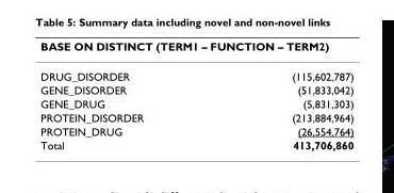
<table><thead><tr><td colspan="2">BASE ON DISTINCT (TERM1 – FUNCTION – TERM2)</td></tr><tr><td>DRUG_DISORDER</td><td>(115,602,787)</td></tr></thead><tbody><tr><td>GENE_DISORDER</td><td>(51,833,042)</td></tr><tr><td>GENE_DRUG</td><td>(5,831,303)</td></tr><tr><td>PROTEIN_DISORDER</td><td>(213,884,964)</td></tr><tr><td>PROTEIN_DRUG</td><td>(26,554,764)</td></tr><tr><td>Total</td><td>413,706,860</td></tr></tbody></table>